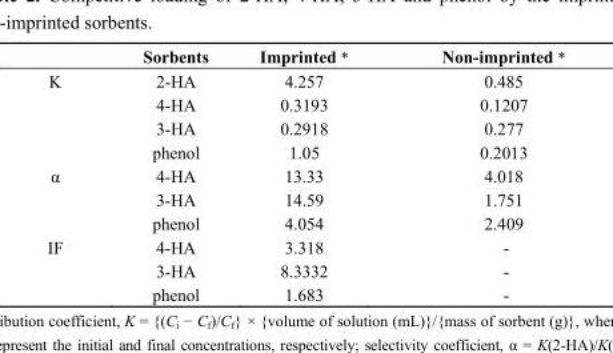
<table><thead><tr><td></td><td>Sorbents</td><td>Imprinted *</td><td>Non-imprinted *</td></tr></thead><tbody><tr><td rowspan="4">K</td><td>2-HA</td><td>4.257</td><td>0.485</td></tr><tr><td>4-HA</td><td>0.3193</td><td>0.1207</td></tr><tr><td>3-HA</td><td>0.2918</td><td>0.277</td></tr><tr><td>phenol</td><td>1.05</td><td>0.2013</td></tr><tr><td rowspan="3">α</td><td>4-HA</td><td>13.33</td><td>4.018</td></tr><tr><td>3-HA</td><td>14.59</td><td>1.751</td></tr><tr><td>phenol</td><td>4.054</td><td>2.409</td></tr><tr><td rowspan="3">IF</td><td>4-HA</td><td>3.318</td><td>-</td></tr><tr><td>3-HA</td><td>8.3332</td><td>-</td></tr><tr><td>phenol</td><td>1.683</td><td>-</td></tr></tbody></table>